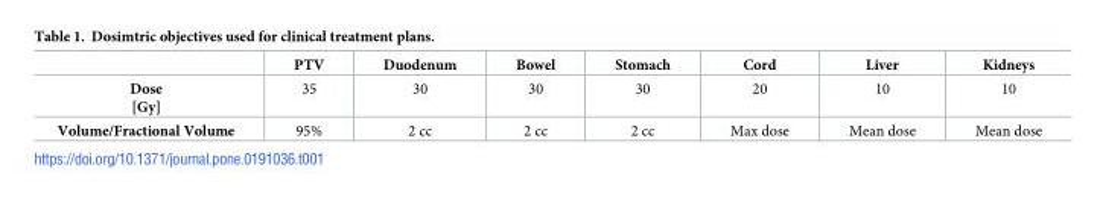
<table><thead><tr><td></td><td>PTV</td><td>Duodenum</td><td>Bowel</td><td>Stomach</td><td>Cord</td><td>Liver</td><td>Kidneys</td></tr></thead><tbody><tr><td>Dose [Gy]</td><td>35</td><td>30</td><td>30</td><td>30</td><td>20</td><td>10</td><td>10</td></tr><tr><td>Volume/Fractional Volume</td><td>95%</td><td>2 cc</td><td>2 cc</td><td>2 cc</td><td>Max dose</td><td>Mean dose</td><td>Mean dose</td></tr></tbody></table>